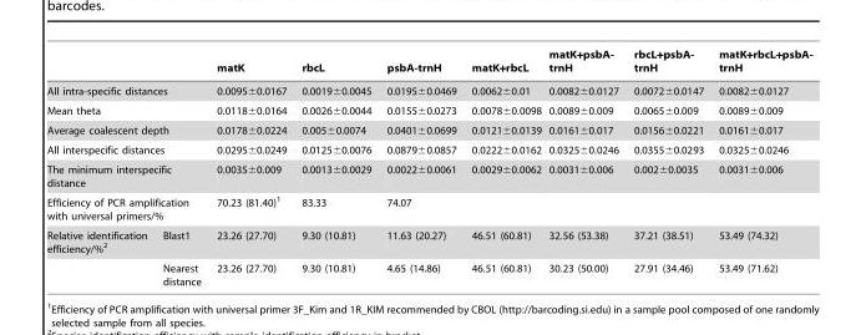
<table><thead><tr><td></td><td></td><td>matK</td><td>rbcL</td><td>psbA-trnH</td><td>matK+rbcL</td><td>matK+psbA- trnH</td><td>rbcL+psbA- trnH</td><td>matK+rbcL+psbA- trnH</td></tr></thead><tbody><tr><td colspan="2">All intra-specific distances</td><td>0.0095±0.0167</td><td>0.0019±0.0045</td><td>0.0195±0.0469</td><td>0.0062±0.01</td><td>0.0082±0.0127</td><td>0.0072±0.0147</td><td>0.0082±0.0127</td></tr><tr><td colspan="2">Mean theta</td><td>0.0118±0.0164</td><td>0.0026±0.0044</td><td>0.0155±0.0273</td><td>0.0078±0.0098</td><td>0.0089±0.009</td><td>0.0065±0.009</td><td>0.0089±0.009</td></tr><tr><td colspan="2">Average coalescent depth</td><td>0.0178±0.0224</td><td>0.005±0.0074</td><td>0.0401±0.0699</td><td>0.0121±0.0139</td><td>0.0161±0.017</td><td>0.0156±0.0221</td><td>0.0161±0.017</td></tr><tr><td colspan="2">All interspecific distances</td><td>0.0295±0.0249</td><td>0.0125±0.0076</td><td>0.0879±0.0857</td><td>0.0222±0.0162</td><td>0.0325±0.0246</td><td>0.0355±0.0293</td><td>0.0325±0.0246</td></tr><tr><td colspan="2">The minimum interspecific distance</td><td>0.0035±0.009</td><td>0.0013±0.0029</td><td>0.0022±0.0061</td><td>0.0029±0.0062</td><td>0.0031±0.006</td><td>0.002±0.0035</td><td>0.0031±0.006</td></tr><tr><td colspan="2">Efficiency of PCR amplification with universal primers/%</td><td>70.23 (81.40)<sup>1</sup></td><td>83.33</td><td>74.07</td><td></td><td></td><td></td><td></td></tr><tr><td rowspan="2">Relative identification efficiency/%<sup>2</sup></td><td>Blast1</td><td>23.26 (27.70)</td><td>9.30 (10.81)</td><td>11.63 (20.27)</td><td>46.51 (60.81)</td><td>32.56 (53.38)</td><td>37.21 (38.51)</td><td>53.49 (74.32)</td></tr><tr><td>Nearest distance</td><td>23.26 (27.70)</td><td>9.30 (10.81)</td><td>4.65 (14.86)</td><td>46.51 (60.81)</td><td>30.23 (50.00)</td><td>27.91 (34.46)</td><td>53.49 (71.62)</td></tr></tbody></table>